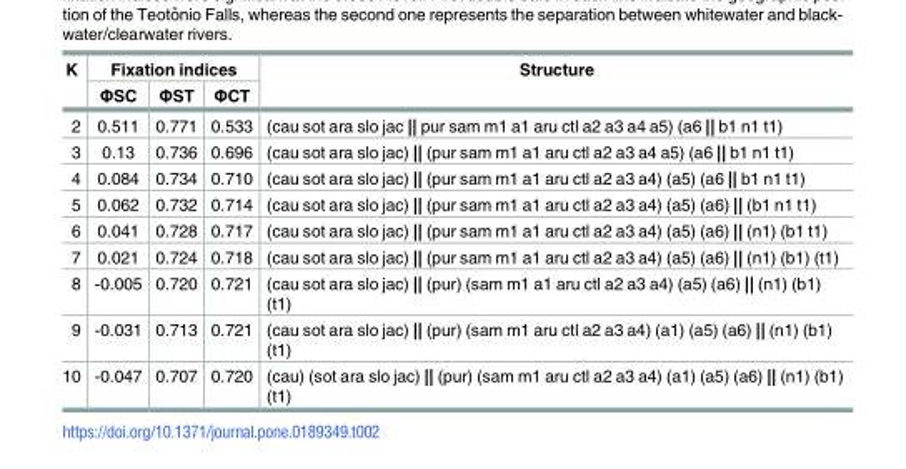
<table><thead><tr><td rowspan="2">K</td><td colspan="3">Fixation indices</td><td rowspan="2">Structure</td></tr><tr><td>ΦSC</td><td>ΦST</td><td>ΦCT</td></tr></thead><tbody><tr><td>2</td><td>0.511</td><td>0.771</td><td>0.533</td><td>(cau sot ara slo jac || pur sam m1 a1 aru ctl a2 a3 a4 a5) (a6 || b1 n1 t1)</td></tr><tr><td>3</td><td>0.13</td><td>0.736</td><td>0.696</td><td>(cau sot ara slo jac) || (pur sam m1 a1 aru ctl a2 a3 a4 a5) (a6 || b1 n1 t1)</td></tr><tr><td>4</td><td>0.084</td><td>0.734</td><td>0.710</td><td>(cau sot ara slo jac) || (pur sam m1 a1 aru ctl a2 a3 a4) (a5) (a6 || b1 n1 t1)</td></tr><tr><td>5</td><td>0.062</td><td>0.732</td><td>0.714</td><td>(cau sot ara slo jac) || (pur sam m1 a1 aru ctl a2 a3 a4) (a5) (a6) || (b1 n1 t1)</td></tr><tr><td>6</td><td>0.041</td><td>0.728</td><td>0.717</td><td>(cau sot ara slo jac) || (pur sam m1 a1 aru ctl a2 a3 a4) (a5) (a6) || (n1) (b1 t1)</td></tr><tr><td>7</td><td>0.021</td><td>0.724</td><td>0.718</td><td>(cau sot ara slo jac) || (pur sam m1 a1 aru ctl a2 a3 a4) (a5) (a6) || (n1) (b1) (t1)</td></tr><tr><td>8</td><td>-0.005</td><td>0.720</td><td>0.721</td><td>(cau sot ara slo jac) || (pur) (sam m1 a1 aru ctl a2 a3 a4) (a5) (a6) || (n1) (b1) (t1)</td></tr><tr><td>9</td><td>-0.031</td><td>0.713</td><td>0.721</td><td>(cau sot ara slo jac) || (pur) (sam m1 aru ctl a2 a3 a4) (a1) (a5) (a6) || (n1) (b1) (t1)</td></tr><tr><td>10</td><td>-0.047</td><td>0.707</td><td>0.720</td><td>(cau) (sot ara slo jac) || (pur) (sam m1 aru ctl a2 a3 a4) (a1) (a5) (a6) || (n1) (b1) (t1)</td></tr></tbody></table>